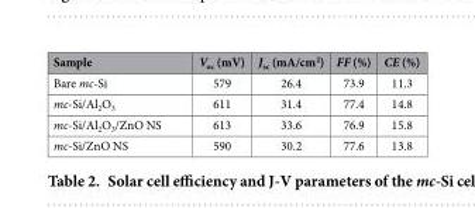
<table><thead><tr><td>Sample</td><td>V<sub>oc</sub> (mV)</td><td>J<sub>sc</sub> (mA/cm<sup>2</sup>)</td><td>FF (%)</td><td>CE (%)</td></tr></thead><tbody><tr><td>Bare mc-Si</td><td>579</td><td>26.4</td><td>73.9</td><td>11.3</td></tr><tr><td>mc-Si/Al<sub>2</sub>O<sub>3</sub></td><td>611</td><td>31.4</td><td>77.4</td><td>14.8</td></tr><tr><td>mc-Si/Al<sub>2</sub>O<sub>3</sub>/ZnO NS</td><td>613</td><td>33.6</td><td>76.9</td><td>15.8</td></tr><tr><td>mc-Si/ZnO NS</td><td>590</td><td>30.2</td><td>77.6</td><td>13.8</td></tr></tbody></table>